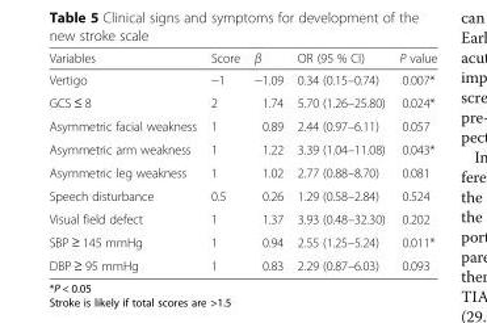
<table><thead><tr><td>Variables</td><td>Score</td><td>β</td><td>OR (95 % CI)</td><td>P value</td></tr></thead><tbody><tr><td>Vertigo</td><td>−1</td><td>−1.09</td><td>0.34 (0.15–0.74)</td><td>0.007*</td></tr><tr><td>GCS ≤ 8</td><td>2</td><td>1.74</td><td>5.70 (1.26–25.80)</td><td>0.024*</td></tr><tr><td>Asymmetric facial weakness</td><td>1</td><td>0.89</td><td>2.44 (0.97–6.11)</td><td>0.057</td></tr><tr><td>Asymmetric arm weakness</td><td>1</td><td>1.22</td><td>3.39 (1.04–11.08)</td><td>0.043*</td></tr><tr><td>Asymmetric leg weakness</td><td>1</td><td>1.02</td><td>2.77 (0.88–8.70)</td><td>0.081</td></tr><tr><td>Speech disturbance</td><td>0.5</td><td>0.26</td><td>1.29 (0.58–2.84)</td><td>0.524</td></tr><tr><td>Visual field defect</td><td>1</td><td>1.37</td><td>3.93 (0.48–32.30)</td><td>0.202</td></tr><tr><td>SBP ≥ 145 mmHg</td><td>1</td><td>0.94</td><td>2.55 (1.25–5.24)</td><td>0.011*</td></tr><tr><td>DBP ≥ 95 mmHg</td><td>1</td><td>0.83</td><td>2.29 (0.87–6.03)</td><td>0.093</td></tr></tbody></table>